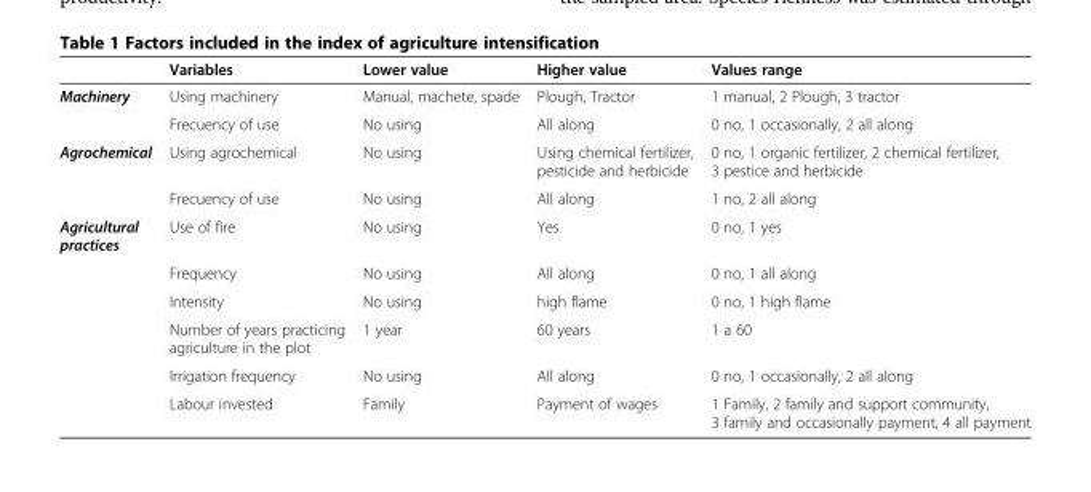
<table><thead><tr><td></td><td>Variables</td><td>Lower value</td><td>Higher value</td><td>Values range</td></tr></thead><tbody><tr><td rowspan="2">Machinery</td><td>Using machinery</td><td>Manual, machete, spade</td><td>Plough, Tractor</td><td>1 manual, 2 Plough, 3 tractor</td></tr><tr><td>Frecuency of use</td><td>No using</td><td>All along</td><td>0 no, 1 occasionally, 2 all along</td></tr><tr><td rowspan="2">Agrochemical</td><td>Using agrochemical</td><td>No using</td><td>Using chemical fertilizer, pesticide and herbicide</td><td>0 no, 1 organic fertilizer, 2 chemical fertilizer, 3 pestice and herbicide</td></tr><tr><td>Frecuency of use</td><td>No using</td><td>All along</td><td>1 no, 2 all along</td></tr><tr><td rowspan="6">Agricultural practices</td><td>Use of fire</td><td>No using</td><td>Yes</td><td>0 no, 1 yes</td></tr><tr><td>Frequency</td><td>No using</td><td>All along</td><td>0 no, 1 all along</td></tr><tr><td>Intensity</td><td>No using</td><td>high flame</td><td>0 no, 1 high flame</td></tr><tr><td>Number of years practicing agriculture in the plot</td><td>1 year</td><td>60 years</td><td>1 a 60</td></tr><tr><td>Irrigation frequency</td><td>No using</td><td>All along</td><td>0 no, 1 occasionally, 2 all along</td></tr><tr><td>Labour invested</td><td>Family</td><td>Payment of wages</td><td>1 Family, 2 family and support community, 3 family and occasionally payment, 4 all payment</td></tr></tbody></table>